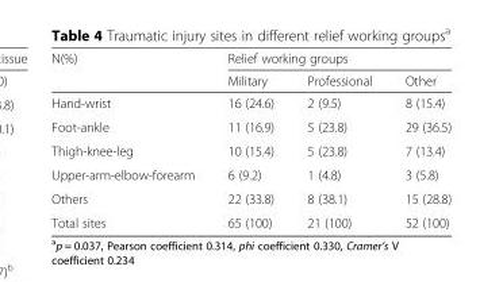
<table><thead><tr><td rowspan="2">N(%)</td><td colspan="3">Relief working groups</td></tr><tr><td>Military</td><td>Professional</td><td>Other</td></tr></thead><tbody><tr><td>Hand-wrist</td><td>16 (24.6)</td><td>2 (9.5)</td><td>8 (15.4)</td></tr><tr><td>Foot-ankle</td><td>11 (16.9)</td><td>5 (23.8)</td><td>29 (36.5)</td></tr><tr><td>Thigh-knee-leg</td><td>10 (15.4)</td><td>5 (23.8)</td><td>7 (13.4)</td></tr><tr><td>Upper-arm-elbow-forearm</td><td>6 (9.2)</td><td>1 (4.8)</td><td>3 (5.8)</td></tr><tr><td>Others</td><td>22 (33.8)</td><td>8 (38.1)</td><td>15 (28.8)</td></tr><tr><td>Total sites</td><td>65 (100)</td><td>21 (100)</td><td>52 (100)</td></tr></tbody></table>